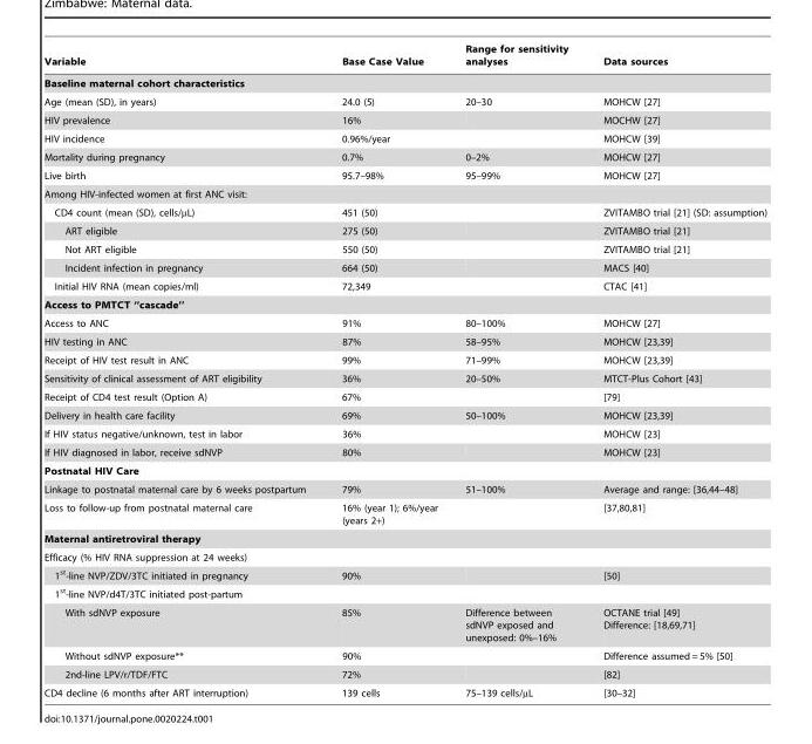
<table><thead><tr><td>Variable</td><td>Base Case Value</td><td>Range for sensitivity analyses</td><td>Data sources</td></tr></thead><tbody><tr><td colspan="4">Baseline maternal cohort characteristics</td></tr><tr><td>Age (mean (SD), in years)</td><td>24.0 (5)</td><td>20–30</td><td>MOHCW [27]</td></tr><tr><td>HIV prevalence</td><td>16%</td><td></td><td>MOCHW [27]</td></tr><tr><td>HIV incidence</td><td>0.96%/year</td><td></td><td>MOHCW [39]</td></tr><tr><td>Mortality during pregnancy</td><td>0.7%</td><td>0–2%</td><td>MOHCW [27]</td></tr><tr><td>Live birth</td><td>95.7–98%</td><td>95–99%</td><td>MOHCW [27]</td></tr><tr><td colspan="4">Among HIV-infected women at first ANC visit:</td></tr><tr><td>CD4 count (mean (SD), cells/µL)</td><td>451 (50)</td><td></td><td>ZVITAMBO trial [21] (SD: assumption)</td></tr><tr><td>ART eligible</td><td>275 (50)</td><td></td><td>ZVITAMBO trial [21]</td></tr><tr><td>Not ART eligible</td><td>550 (50)</td><td></td><td>ZVITAMBO trial [21]</td></tr><tr><td>Incident infection in pregnancy</td><td>664 (50)</td><td></td><td>MACS [40]</td></tr><tr><td>Initial HIV RNA (mean copies/ml)</td><td>72,349</td><td></td><td>CTAC [41]</td></tr><tr><td colspan="4">Access to PMTCT ‘‘cascade’’</td></tr><tr><td>Access to ANC</td><td>91%</td><td>80–100%</td><td>MOHCW [27]</td></tr><tr><td>HIV testing in ANC</td><td>87%</td><td>58–95%</td><td>MOHCW [23,39]</td></tr><tr><td>Receipt of HIV test result in ANC</td><td>99%</td><td>71–99%</td><td>MOHCW [23,39]</td></tr><tr><td>Sensitivity of clinical assessment of ART eligibility</td><td>36%</td><td>20–50%</td><td>MTCT-Plus Cohort [43]</td></tr><tr><td>Receipt of CD4 test result (Option A)</td><td>67%</td><td></td><td>[79]</td></tr><tr><td>Delivery in health care facility</td><td>69%</td><td>50–100%</td><td>MOHCW [23,39]</td></tr><tr><td>If HIV status negative/unknown, test in labor</td><td>36%</td><td></td><td>MOHCW [23]</td></tr><tr><td>If HIV diagnosed in labor, receive sdNVP</td><td>80%</td><td></td><td>MOHCW [23]</td></tr><tr><td colspan="4">Postnatal HIV Care</td></tr><tr><td>Linkage to postnatal maternal care by 6 weeks postpartum</td><td>79%</td><td>51–100%</td><td>Average and range: [36,44–48]</td></tr><tr><td>Loss to follow-up from postnatal maternal care</td><td>16% (year 1); 6%/year (years 2+)</td><td></td><td>[37,80,81]</td></tr><tr><td colspan="4">Maternal antiretroviral therapy</td></tr><tr><td colspan="4">Efficacy (% HIV RNA suppression at 24 weeks)</td></tr><tr><td>1<sup>st</sup>-line NVP/ZDV/3TC initiated in pregnancy</td><td>90%</td><td></td><td>[50]</td></tr><tr><td colspan="4">1<sup>st</sup>-line NVP/d4T/3TC initiated post-partum</td></tr><tr><td>With sdNVP exposure</td><td>85%</td><td>Difference between sdNVP exposed and unexposed: 0%–16%</td><td>OCTANE trial [49] Difference: [18,69,71]</td></tr><tr><td>Without sdNVP exposure**</td><td>90%</td><td></td><td>Difference assumed = 5% [50]</td></tr><tr><td>2nd-line LPV/r/TDF/FTC</td><td>72%</td><td></td><td>[82]</td></tr><tr><td>CD4 decline (6 months after ART interruption)</td><td>139 cells</td><td>75–139 cells/µL</td><td>[30–32]</td></tr></tbody></table>